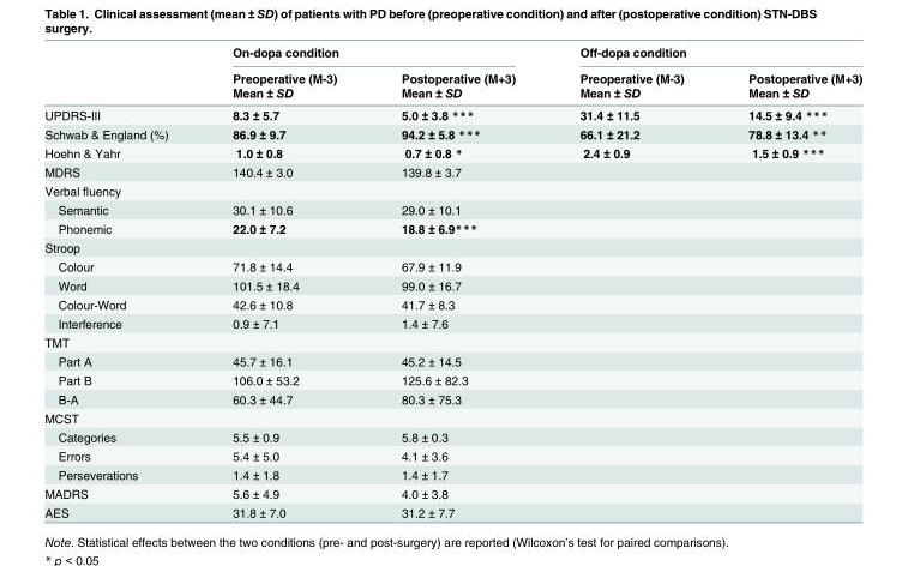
<table><thead><tr><td rowspan="3"></td><td colspan="2">On-dopa condition</td><td colspan="2">Off-dopa condition</td></tr><tr><td rowspan="2">Preoperative (M-3) Mean ± SD</td><td rowspan="2">Postoperative (M+3) Mean ± SD</td><td rowspan="2">Preoperative (M-3) Mean ± SD</td><td rowspan="2">Postoperative (M+3) Mean ± SD</td></tr><tr></tr></thead><tbody><tr><td>UPDRS-III</td><td>8.3 ± 5.7</td><td>5.0 ± 3.8 ***</td><td>31.4 ± 11.5</td><td>14.5 ± 9.4 ***</td></tr><tr><td>Schwab &amp; England (%)</td><td>86.9 ± 9.7</td><td>94.2 ± 5.8 ***</td><td>66.1 ± 21.2</td><td>78.8 ± 13.4 **</td></tr><tr><td>Hoehn &amp; Yahr</td><td>1.0 ± 0.8</td><td>0.7 ± 0.8 *</td><td>2.4 ± 0.9</td><td>1.5 ± 0.9 ***</td></tr><tr><td>MDRS</td><td>140.4 ± 3.0</td><td>139.8 ± 3.7</td><td></td><td></td></tr><tr><td colspan="5">Verbal fluency</td></tr><tr><td>Semantic</td><td>30.1 ± 10.6</td><td>29.0 ± 10.1</td><td></td><td></td></tr><tr><td>Phonemic</td><td>22.0 ± 7.2</td><td>18.8 ± 6.9***</td><td></td><td></td></tr><tr><td colspan="5">Stroop</td></tr><tr><td>Colour</td><td>71.8 ± 14.4</td><td>67.9 ± 11.9</td><td></td><td></td></tr><tr><td>Word</td><td>101.5 ± 18.4</td><td>99.0 ± 16.7</td><td></td><td></td></tr><tr><td>Colour-Word</td><td>42.6 ± 10.8</td><td>41.7 ± 8.3</td><td></td><td></td></tr><tr><td>Interference</td><td>0.9 ± 7.1</td><td>1.4 ± 7.6</td><td></td><td></td></tr><tr><td colspan="5">TMT</td></tr><tr><td>Part A</td><td>45.7 ± 16.1</td><td>45.2 ± 14.5</td><td></td><td></td></tr><tr><td>Part B</td><td>106.0 ± 53.2</td><td>125.6 ± 82.3</td><td></td><td></td></tr><tr><td>B-A</td><td>60.3 ± 44.7</td><td>80.3 ± 75.3</td><td></td><td></td></tr><tr><td colspan="5">MCST</td></tr><tr><td>Categories</td><td>5.5 ± 0.9</td><td>5.8 ± 0.3</td><td></td><td></td></tr><tr><td>Errors</td><td>5.4 ± 5.0</td><td>4.1 ± 3.6</td><td></td><td></td></tr><tr><td>Perseverations</td><td>1.4 ± 1.8</td><td>1.4 ± 1.7</td><td></td><td></td></tr><tr><td>MADRS</td><td>5.6 ± 4.9</td><td>4.0 ± 3.8</td><td></td><td></td></tr><tr><td>AES</td><td>31.8 ± 7.0</td><td>31.2 ± 7.7</td><td></td><td></td></tr></tbody></table>